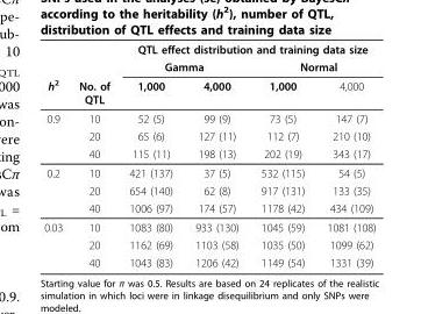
<table><thead><tr><td rowspan="3">h<sup>2</sup></td><td rowspan="3">No. of QTL</td><td colspan="4">QTL effect distribution and training data size</td></tr><tr><td colspan="2">Gamma</td><td colspan="2">Normal</td></tr><tr><td>1,000</td><td>4,000</td><td>1,000</td><td>4,000</td></tr></thead><tbody><tr><td rowspan="3">0.9</td><td>10</td><td>52 (5)</td><td>99 (9)</td><td>73 (5)</td><td>147 (7)</td></tr><tr><td>20</td><td>65 (6)</td><td>127 (11)</td><td>112 (7)</td><td>210 (10)</td></tr><tr><td>40</td><td>115 (11)</td><td>198 (13)</td><td>202 (19)</td><td>343 (17)</td></tr><tr><td rowspan="3">0.2</td><td>10</td><td>421 (137)</td><td>37 (5)</td><td>532 (115)</td><td>54 (5)</td></tr><tr><td>20</td><td>654 (140)</td><td>62 (8)</td><td>917 (131)</td><td>133 (35)</td></tr><tr><td>40</td><td>1006 (97)</td><td>174 (57)</td><td>1178 (42)</td><td>434 (109)</td></tr><tr><td rowspan="3">0.03</td><td>10</td><td>1083 (80)</td><td>933 (130)</td><td>1045 (59)</td><td>1081 (108)</td></tr><tr><td>20</td><td>1162 (69)</td><td>1103 (58)</td><td>1035 (50)</td><td>1099 (62)</td></tr><tr><td>40</td><td>1043 (83)</td><td>1206 (42)</td><td>1149 (54)</td><td>1331 (39)</td></tr></tbody></table>